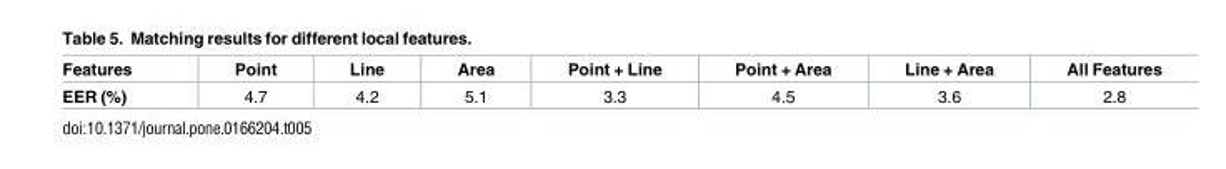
<table><thead><tr><td>Features</td><td>Point</td><td>Line</td><td>Area</td><td>Point + Line</td><td>Point + Area</td><td>Line + Area</td><td>All Features</td></tr></thead><tbody><tr><td>EER (%)</td><td>4.7</td><td>4.2</td><td>5.1</td><td>3.3</td><td>4.5</td><td>3.6</td><td>2.8</td></tr></tbody></table>